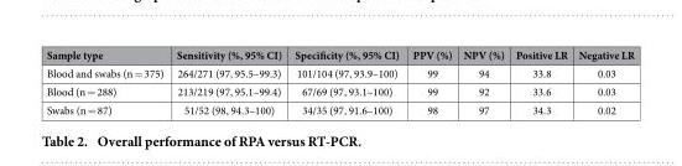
<table><thead><tr><td>Sample type</td><td>Sensitivity (%, 95% CI)</td><td>Specificity (%, 95% CI)</td><td>PPV (%)</td><td>NPV (%)</td><td>Positive LR</td><td>Negative LR</td></tr></thead><tbody><tr><td>Blood and swabs (n = 375)</td><td>264/271 (97, 95.5–99.3)</td><td>101/104 (97, 93.9–100)</td><td>99</td><td>94</td><td>33.8</td><td>0.03</td></tr><tr><td>Blood (n = 288)</td><td>213/219 (97, 95.1–99.4)</td><td>67/69 (97, 93.1–100)</td><td>99</td><td>92</td><td>33.6</td><td>0.03</td></tr><tr><td>Swabs (n = 87)</td><td>51/52 (98, 94.3–100)</td><td>34/35 (97, 91.6–100)</td><td>98</td><td>97</td><td>34.3</td><td>0.02</td></tr></tbody></table>